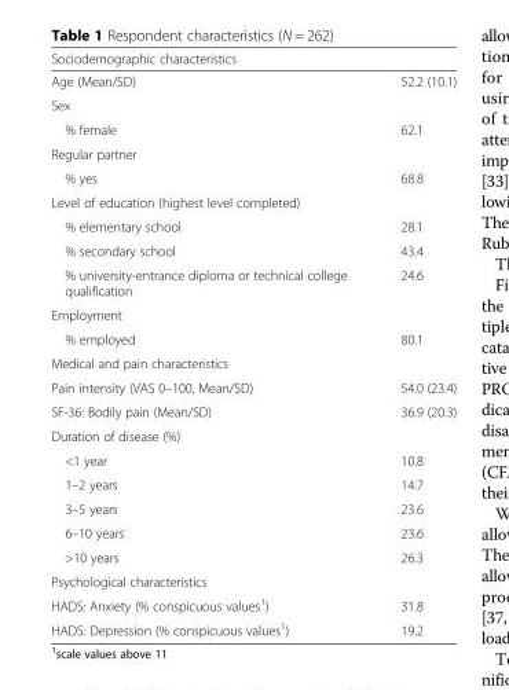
<table><thead><tr><td>Sociodemographic characteristics</td><td></td></tr></thead><tbody><tr><td>Age (Mean/SD)</td><td>52.2 (10.1)</td></tr><tr><td colspan="2">Sex</td></tr><tr><td>% female</td><td>62.1</td></tr><tr><td colspan="2">Regular partner</td></tr><tr><td>% yes</td><td>68.8</td></tr><tr><td colspan="2">Level of education (highest level completed)</td></tr><tr><td>% elementary school</td><td>28.1</td></tr><tr><td>% secondary school</td><td>43.4</td></tr><tr><td>% university-entrance diploma or technical college qualification</td><td>24.6</td></tr><tr><td colspan="2">Employment</td></tr><tr><td>% employed</td><td>80.1</td></tr><tr><td colspan="2">Medical and pain characteristics</td></tr><tr><td>Pain intensity (VAS 0–100, Mean/SD)</td><td>54.0 (23.4)</td></tr><tr><td>SF-36: Bodily pain (Mean/SD)</td><td>36.9 (20.3)</td></tr><tr><td colspan="2">Duration of disease (%)</td></tr><tr><td>&lt;1 year</td><td>10.8</td></tr><tr><td>1–2 years</td><td>14.7</td></tr><tr><td>3–5 years</td><td>23.6</td></tr><tr><td>6–10 years</td><td>23.6</td></tr><tr><td>&gt;10 years</td><td>26.3</td></tr><tr><td colspan="2">Psychological characteristics</td></tr><tr><td>HADS: Anxiety (% conspicuous values<sup>1</sup>)</td><td>31.8</td></tr><tr><td>HADS: Depression (% conspicuous values<sup>1</sup>)</td><td>19.2</td></tr></tbody></table>